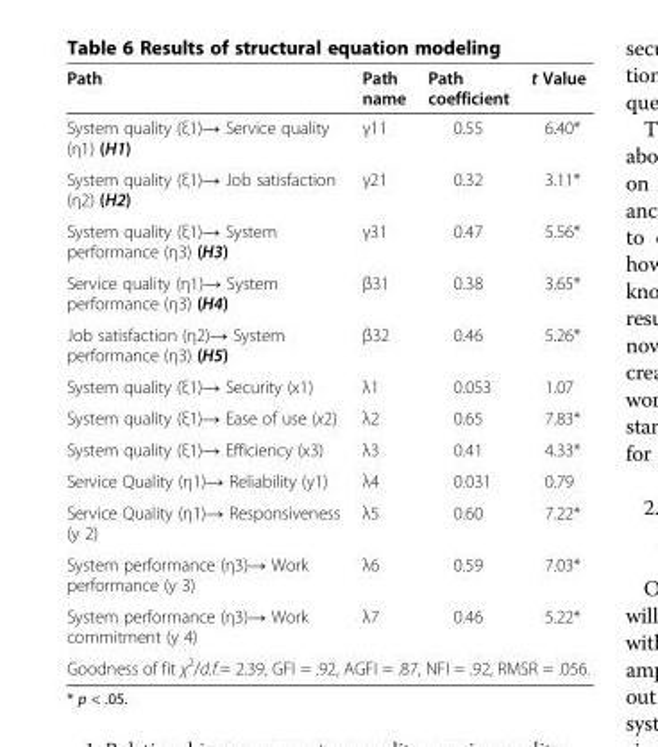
<table><thead><tr><td>Path</td><td>Path name</td><td>Path coefficient</td><td>t Value</td></tr></thead><tbody><tr><td>System quality (ξ1)→ Service quality (η1) (H1)</td><td>γ11</td><td>0.55</td><td>6.40*</td></tr><tr><td>System quality (ξ1)→ Job satisfaction (η2) (H2)</td><td>γ21</td><td>0.32</td><td>3.11*</td></tr><tr><td>System quality (ξ1)→ System performance (η3) (H3)</td><td>γ31</td><td>0.47</td><td>5.56*</td></tr><tr><td>Service quality (η1)→ System performance (η3) (H4)</td><td>β31</td><td>0.38</td><td>3.65*</td></tr><tr><td>Job satisfaction (η2)→ System performance (η3) (H5)</td><td>β32</td><td>0.46</td><td>5.26*</td></tr><tr><td>System quality (ξ1)→ Security (x1)</td><td>λ1</td><td>0.053</td><td>1.07</td></tr><tr><td>System quality (ξ1)→ Ease of use (x2)</td><td>λ2</td><td>0.65</td><td>7.83*</td></tr><tr><td>System quality (ξ1)→ Efficiency (x3)</td><td>λ3</td><td>0.41</td><td>4.33*</td></tr><tr><td>Service Quality (η1)→ Reliability (y1)</td><td>λ4</td><td>0.031</td><td>0.79</td></tr><tr><td>Service Quality (η1)→ Responsiveness (y 2)</td><td>λ5</td><td>0.60</td><td>7.22*</td></tr><tr><td>System performance (η3)→ Work performance (y 3)</td><td>λ6</td><td>0.59</td><td>7.03*</td></tr><tr><td>System performance (η3)→ Work commitment (y 4)</td><td>λ7</td><td>0.46</td><td>5.22*</td></tr><tr><td colspan="4">Goodness of fit χ<sup>2</sup>/d.f.= 2.39, GFI = .92, AGFI = .87, NFI = .92, RMSR = .056.</td></tr></tbody></table>